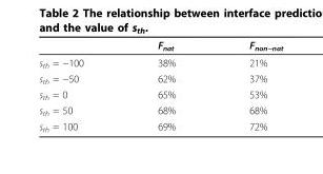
<table><thead><tr><td></td><td>F<sub>nat</sub></td><td>F<sub>non−nat</sub></td></tr></thead><tbody><tr><td>s<sub>th</sub> = −100</td><td>38%</td><td>21%</td></tr><tr><td>s<sub>th</sub> = −50</td><td>62%</td><td>37%</td></tr><tr><td>s<sub>th</sub> = 0</td><td>65%</td><td>53%</td></tr><tr><td>s<sub>th</sub> = 50</td><td>68%</td><td>68%</td></tr><tr><td>s<sub>th</sub> = 100</td><td>69%</td><td>72%</td></tr></tbody></table>